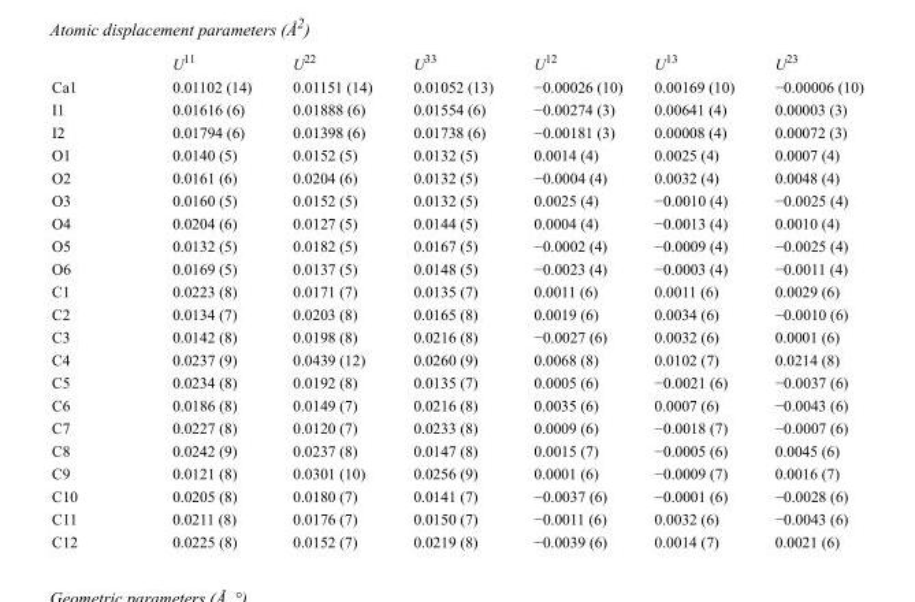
<table><thead><tr><td></td><td>U<sup>11</sup></td><td>U<sup>22</sup></td><td>U<sup>33</sup></td><td>U<sup>12</sup></td><td>U<sup>13</sup></td><td>U<sup>23</sup></td></tr></thead><tbody><tr><td>Ca1</td><td>0.01102 (14)</td><td>0.01151 (14)</td><td>0.01052 (13)</td><td>−0.00026 (10)</td><td>0.00169 (10)</td><td>−0.00006 (10)</td></tr><tr><td>I1</td><td>0.01616 (6)</td><td>0.01888 (6)</td><td>0.01554 (6)</td><td>−0.00274 (3)</td><td>0.00641 (4)</td><td>0.00003 (3)</td></tr><tr><td>I2</td><td>0.01794 (6)</td><td>0.01398 (6)</td><td>0.01738 (6)</td><td>−0.00181 (3)</td><td>0.00008 (4)</td><td>0.00072 (3)</td></tr><tr><td>O1</td><td>0.0140 (5)</td><td>0.0152 (5)</td><td>0.0132 (5)</td><td>0.0014 (4)</td><td>0.0025 (4)</td><td>0.0007 (4)</td></tr><tr><td>O2</td><td>0.0161 (6)</td><td>0.0204 (6)</td><td>0.0132 (5)</td><td>−0.0004 (4)</td><td>0.0032 (4)</td><td>0.0048 (4)</td></tr><tr><td>O3</td><td>0.0160 (5)</td><td>0.0152 (5)</td><td>0.0132 (5)</td><td>0.0025 (4)</td><td>−0.0010 (4)</td><td>−0.0025 (4)</td></tr><tr><td>O4</td><td>0.0204 (6)</td><td>0.0127 (5)</td><td>0.0144 (5)</td><td>0.0004 (4)</td><td>−0.0013 (4)</td><td>0.0010 (4)</td></tr><tr><td>O5</td><td>0.0132 (5)</td><td>0.0182 (5)</td><td>0.0167 (5)</td><td>−0.0002 (4)</td><td>−0.0009 (4)</td><td>−0.0025 (4)</td></tr><tr><td>O6</td><td>0.0169 (5)</td><td>0.0137 (5)</td><td>0.0148 (5)</td><td>−0.0023 (4)</td><td>−0.0003 (4)</td><td>−0.0011 (4)</td></tr><tr><td>C1</td><td>0.0223 (8)</td><td>0.0171 (7)</td><td>0.0135 (7)</td><td>0.0011 (6)</td><td>0.0011 (6)</td><td>0.0029 (6)</td></tr><tr><td>C2</td><td>0.0134 (7)</td><td>0.0203 (8)</td><td>0.0165 (8)</td><td>0.0019 (6)</td><td>0.0034 (6)</td><td>−0.0010 (6)</td></tr><tr><td>C3</td><td>0.0142 (8)</td><td>0.0198 (8)</td><td>0.0216 (8)</td><td>−0.0027 (6)</td><td>0.0032 (6)</td><td>0.0001 (6)</td></tr><tr><td>C4</td><td>0.0237 (9)</td><td>0.0439 (12)</td><td>0.0260 (9)</td><td>0.0068 (8)</td><td>0.0102 (7)</td><td>0.0214 (8)</td></tr><tr><td>C5</td><td>0.0234 (8)</td><td>0.0192 (8)</td><td>0.0135 (7)</td><td>0.0005 (6)</td><td>−0.0021 (6)</td><td>−0.0037 (6)</td></tr><tr><td>C6</td><td>0.0186 (8)</td><td>0.0149 (7)</td><td>0.0216 (8)</td><td>0.0035 (6)</td><td>0.0007 (6)</td><td>−0.0043 (6)</td></tr><tr><td>C7</td><td>0.0227 (8)</td><td>0.0120 (7)</td><td>0.0233 (8)</td><td>0.0009 (6)</td><td>−0.0018 (7)</td><td>−0.0007 (6)</td></tr><tr><td>C8</td><td>0.0242 (9)</td><td>0.0237 (8)</td><td>0.0147 (8)</td><td>0.0015 (7)</td><td>−0.0005 (6)</td><td>0.0045 (6)</td></tr><tr><td>C9</td><td>0.0121 (8)</td><td>0.0301 (10)</td><td>0.0256 (9)</td><td>0.0001 (6)</td><td>−0.0009 (7)</td><td>0.0016 (7)</td></tr><tr><td>C10</td><td>0.0205 (8)</td><td>0.0180 (7)</td><td>0.0141 (7)</td><td>−0.0037 (6)</td><td>−0.0001 (6)</td><td>−0.0028 (6)</td></tr><tr><td>C11</td><td>0.0211 (8)</td><td>0.0176 (7)</td><td>0.0150 (7)</td><td>−0.0011 (6)</td><td>0.0032 (6)</td><td>−0.0043 (6)</td></tr><tr><td>C12</td><td>0.0225 (8)</td><td>0.0152 (7)</td><td>0.0219 (8)</td><td>−0.0039 (6)</td><td>0.0014 (7)</td><td>0.0021 (6)</td></tr></tbody></table>